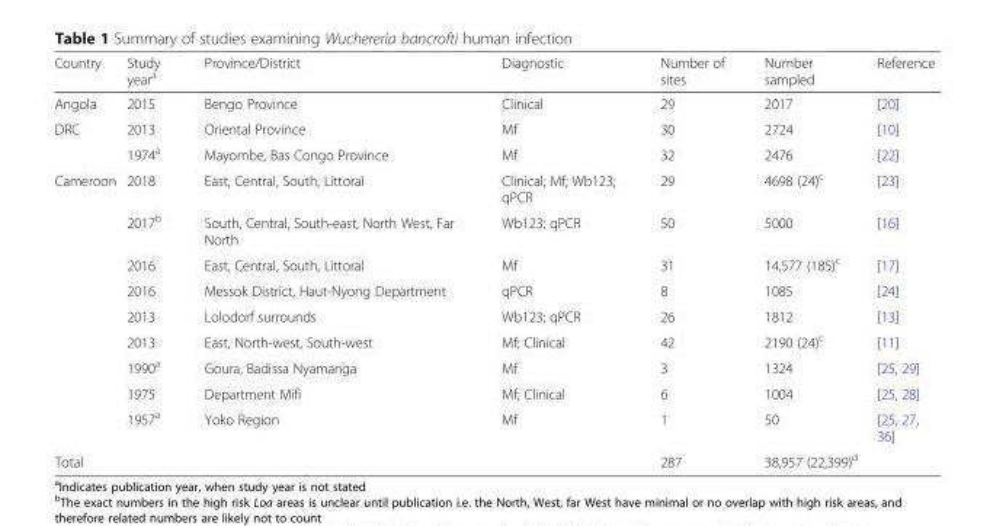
<table><thead><tr><td>Country</td><td>Study year<sup>a</sup></td><td>Province/District</td><td>Diagnostic</td><td>Number of sites</td><td>Number sampled</td><td>Reference</td></tr></thead><tbody><tr><td>Angola</td><td>2015</td><td>Bengo Province</td><td>Clinical</td><td>29</td><td>2017</td><td>[20]</td></tr><tr><td rowspan="2">DRC</td><td>2013</td><td>Oriental Province</td><td>Mf</td><td>30</td><td>2724</td><td>[10]</td></tr><tr><td>1974<sup>a</sup></td><td>Mayombe, Bas Congo Province</td><td>Mf</td><td>32</td><td>2476</td><td>[22]</td></tr><tr><td rowspan="9">Cameroon</td><td>2018</td><td>East, Central, South, Littoral</td><td>Clinical; Mf; Wb123; qPCR</td><td>29</td><td>4698 (24)<sup>c</sup></td><td>[23]</td></tr><tr><td>2017<sup>b</sup></td><td>South, Central, South-east, North West, Far North</td><td>Wb123; qPCR</td><td>50</td><td>5000</td><td>[16]</td></tr><tr><td>2016</td><td>East, Central, South, Littoral</td><td>Mf</td><td>31</td><td>14,577 (185)<sup>c</sup></td><td>[17]</td></tr><tr><td>2016</td><td>Messok District, Haut-Nyong Department</td><td>qPCR</td><td>8</td><td>1085</td><td>[24]</td></tr><tr><td>2013</td><td>Lolodorf surrounds</td><td>Wb123; qPCR</td><td>26</td><td>1812</td><td>[13]</td></tr><tr><td>2013</td><td>East, North-west, South-west</td><td>Mf; Clinical</td><td>42</td><td>2190 (24)<sup>c</sup></td><td>[11]</td></tr><tr><td>1990<sup>a</sup></td><td>Goura, Badissa Nyamanga</td><td>Mf</td><td>3</td><td>1324</td><td>[25, 29]</td></tr><tr><td>1975</td><td>Department Mifi</td><td>Mf; Clinical</td><td>6</td><td>1004</td><td>[25, 28]</td></tr><tr><td>1957<sup>a</sup></td><td>Yoko Region</td><td>Mf</td><td>1</td><td>50</td><td>[25, 27, 36]</td></tr><tr><td>Total</td><td colspan="3"></td><td>287</td><td>38,957 (22,399)<sup>d</sup></td><td></td></tr></tbody></table>